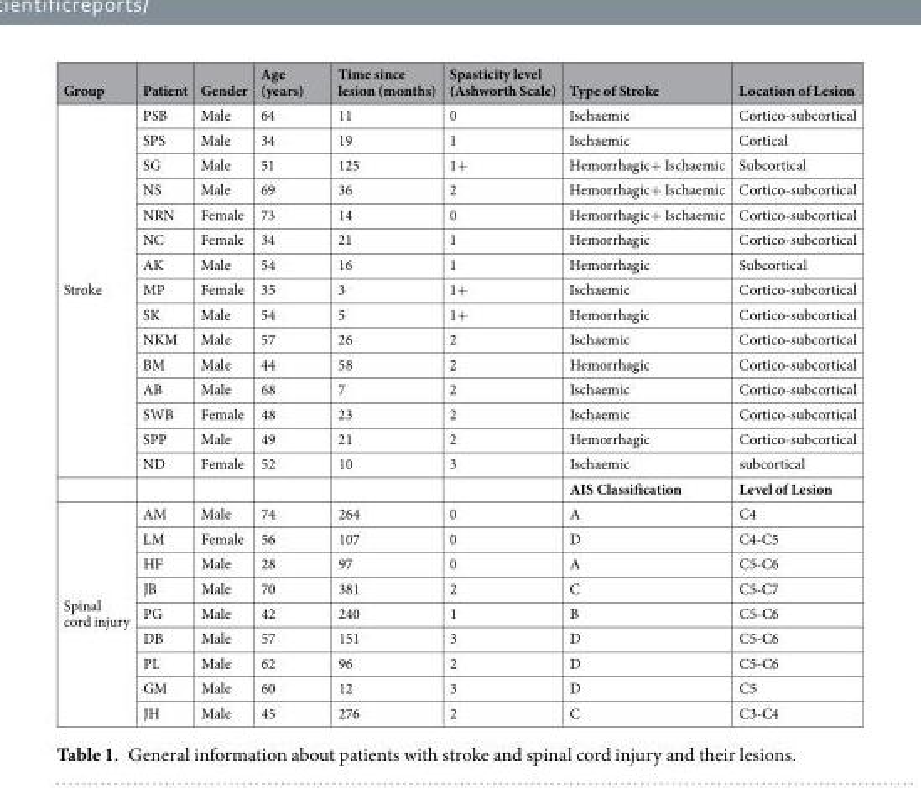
<table><thead><tr><td>Group</td><td>Patient</td><td>Gender</td><td>Age (years)</td><td>Time since lesion (months)</td><td>Spasticity level (Ashworth Scale)</td><td>Type of Stroke</td><td>Location of Lesion</td></tr></thead><tbody><tr><td rowspan="16">Stroke</td><td>PSB</td><td>Male</td><td>64</td><td>11</td><td>0</td><td>Ischaemic</td><td>Cortico-subcortical</td></tr><tr><td>SPS</td><td>Male</td><td>34</td><td>19</td><td>1</td><td>Ischaemic</td><td>Cortical</td></tr><tr><td>SG</td><td>Male</td><td>51</td><td>125</td><td>1+</td><td>Hemorrhagic+ Ischaemic</td><td>Subcortical</td></tr><tr><td>NS</td><td>Male</td><td>69</td><td>36</td><td>2</td><td>Hemorrhagic+ Ischaemic</td><td>Cortico-subcortical</td></tr><tr><td>NRN</td><td>Female</td><td>73</td><td>14</td><td>0</td><td>Hemorrhagic+ Ischaemic</td><td>Cortico-subcortical</td></tr><tr><td>NC</td><td>Female</td><td>34</td><td>21</td><td>1</td><td>Hemorrhagic</td><td>Cortico-subcortical</td></tr><tr><td>AK</td><td>Male</td><td>54</td><td>16</td><td>1</td><td>Hemorrhagic</td><td>Subcortical</td></tr><tr><td>MP</td><td>Female</td><td>35</td><td>3</td><td>1+</td><td>Ischaemic</td><td>Cortico-subcortical</td></tr><tr><td>SK</td><td>Male</td><td>54</td><td>5</td><td>1+</td><td>Hemorrhagic</td><td>Cortico-subcortical</td></tr><tr><td>NKM</td><td>Male</td><td>57</td><td>26</td><td>2</td><td>Ischaemic</td><td>Cortico-subcortical</td></tr><tr><td>BM</td><td>Male</td><td>44</td><td>58</td><td>2</td><td>Hemorrhagic</td><td>Cortico-subcortical</td></tr><tr><td>AB</td><td>Male</td><td>68</td><td>7</td><td>2</td><td>Ischaemic</td><td>Cortico-subcortical</td></tr><tr><td>SWB</td><td>Female</td><td>48</td><td>23</td><td>2</td><td>Ischaemic</td><td>Cortico-subcortical</td></tr><tr><td>SPP</td><td>Male</td><td>49</td><td>21</td><td>2</td><td>Hemorrhagic</td><td>Cortico-subcortical</td></tr><tr><td>ND</td><td>Female</td><td>52</td><td>10</td><td>3</td><td>Ischaemic</td><td>subcortical</td></tr><tr><td></td><td></td><td></td><td></td><td></td><td>AIS Classification</td><td>Level of Lesion</td></tr><tr><td rowspan="9">Spinal cord injury</td><td>AM</td><td>Male</td><td>74</td><td>264</td><td>0</td><td>A</td><td>C4</td></tr><tr><td>LM</td><td>Female</td><td>56</td><td>107</td><td>0</td><td>D</td><td>C4-C5</td></tr><tr><td>HF</td><td>Male</td><td>28</td><td>97</td><td>0</td><td>A</td><td>C5-C6</td></tr><tr><td>JB</td><td>Male</td><td>70</td><td>381</td><td>2</td><td>C</td><td>C5-C7</td></tr><tr><td>PG</td><td>Male</td><td>42</td><td>240</td><td>1</td><td>B</td><td>C5-C6</td></tr><tr><td>DB</td><td>Male</td><td>57</td><td>151</td><td>3</td><td>D</td><td>C5-C6</td></tr><tr><td>PL</td><td>Male</td><td>62</td><td>96</td><td>2</td><td>D</td><td>C5-C6</td></tr><tr><td>GM</td><td>Male</td><td>60</td><td>12</td><td>3</td><td>D</td><td>C5</td></tr><tr><td>JH</td><td>Male</td><td>45</td><td>276</td><td>2</td><td>C</td><td>C3-C4</td></tr></tbody></table>